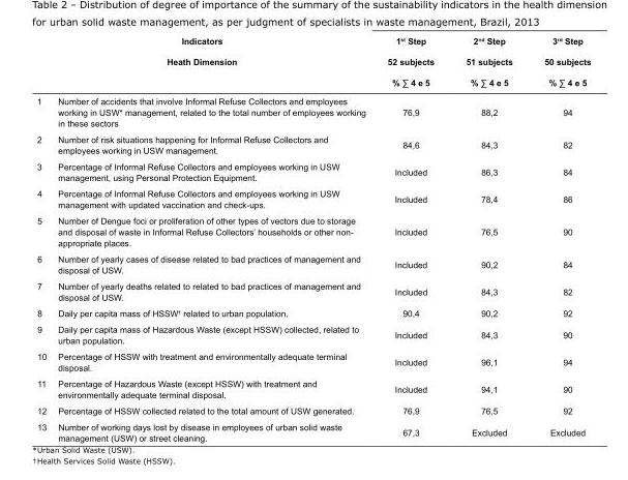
<table><tbody><tr><td colspan="2">Indicators</td><td>1<sup>st</sup> Step</td><td>2<sup>nd</sup> Step</td><td>3<sup>rd</sup> Step</td></tr><tr><td colspan="2">Heath Dimension</td><td>52 subjects</td><td>51 subjects</td><td>50 subjects</td></tr><tr><td></td><td></td><td>% ∑ 4 e 5</td><td>% ∑ 4 e 5</td><td>% ∑ 4 e 5</td></tr><tr><td>1</td><td>Number of accidents that involve Informal Refuse Collectors and employees working in USW* management, related to the total number of employees working in these sectors</td><td>76,9</td><td>88,2</td><td>94</td></tr><tr><td>2</td><td>Number of risk situations happening for Informal Refuse Collectors and employees working in USW management.</td><td>84,6</td><td>84,3</td><td>82</td></tr><tr><td>3</td><td>Percentage of Informal Refuse Collectors and employees working in USW management, using Personal Protection Equipment.</td><td>Included</td><td>86,3</td><td>84</td></tr><tr><td>4</td><td>Percentage of Informal Refuse Collectors and employees working in USW management with updated vaccination and check-ups.</td><td>Included</td><td>78,4</td><td>86</td></tr><tr><td>5</td><td>Number of Dengue foci or proliferation of other types of vectors due to storage and disposal of waste in Informal Refuse Collectors’ households or other non- appropriate places.</td><td>Included</td><td>76,5</td><td>90</td></tr><tr><td>6</td><td>Number of yearly cases of disease related to bad practices of management and disposal of USW.</td><td>Included</td><td>90,2</td><td>84</td></tr><tr><td>7</td><td>Number of yearly deaths related to related to bad practices of management and disposal of USW.</td><td>Included</td><td>84,3</td><td>82</td></tr><tr><td>8</td><td>Daily per capita mass of HSSW<sup>†</sup> related to urban population.</td><td>90,4</td><td>90,2</td><td>92</td></tr><tr><td>9</td><td>Daily per capita mass of Hazardous Waste (except HSSW) collected, related to urban population.</td><td>Included</td><td>84,3</td><td>90</td></tr><tr><td>10</td><td>Percentage of HSSW with treatment and environmentally adequate terminal disposal.</td><td>Included</td><td>96,1</td><td>94</td></tr><tr><td>11</td><td>Percentage of Hazardous Waste (except HSSW) with treatment and environmentally adequate terminal disposal.</td><td>Included</td><td>94,1</td><td>90</td></tr><tr><td>12</td><td>Percentage of HSSW collected related to the total amount of USW generated.</td><td>76,9</td><td>76,5</td><td>92</td></tr><tr><td>13</td><td>Number of working days lost by disease in employees of urban solid waste management (USW) or street cleaning.</td><td>67,3</td><td>Excluded</td><td>Excluded</td></tr></tbody></table>